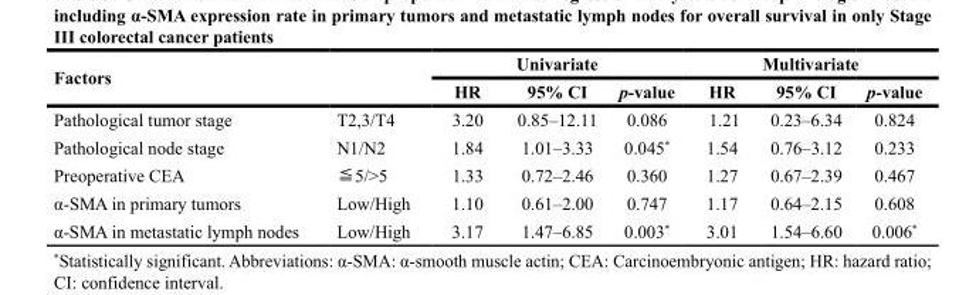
<table><thead><tr><td rowspan="2" colspan="2">Factors</td><td colspan="3">univariate</td><td colspan="3">Multivariate</td></tr><tr><td rowspan="2">Hr 3.20</td><td rowspan="2">95% cI 0.85–12.11</td><td rowspan="2">p-value 0.086</td><td rowspan="2">Hr 1.21</td><td rowspan="2">95% cI 0.23–6.34</td><td rowspan="2">p-value 0.824</td></tr><tr><td>Pathological tumor stage</td><td>T2,3/T4</td></tr></thead><tbody><tr><td>Pathological node stage</td><td>N1/N2</td><td>1.84</td><td>1.01–3.33</td><td>0.045*</td><td>1.54</td><td>0.76–3.12</td><td>0.233</td></tr><tr><td>Preoperative CEA</td><td>≦5/&gt;5</td><td>1.33</td><td>0.72–2.46</td><td>0.360</td><td>1.27</td><td>0.67–2.39</td><td>0.467</td></tr><tr><td>α-SMA in primary tumors</td><td>Low/High</td><td>1.10</td><td>0.61–2.00</td><td>0.747</td><td>1.17</td><td>0.64–2.15</td><td>0.608</td></tr><tr><td>α-SMA in metastatic lymph nodes</td><td>Low/High</td><td>3.17</td><td>1.47–6.85</td><td>0.003*</td><td>3.01</td><td>1.54–6.60</td><td>0.006*</td></tr></tbody></table>